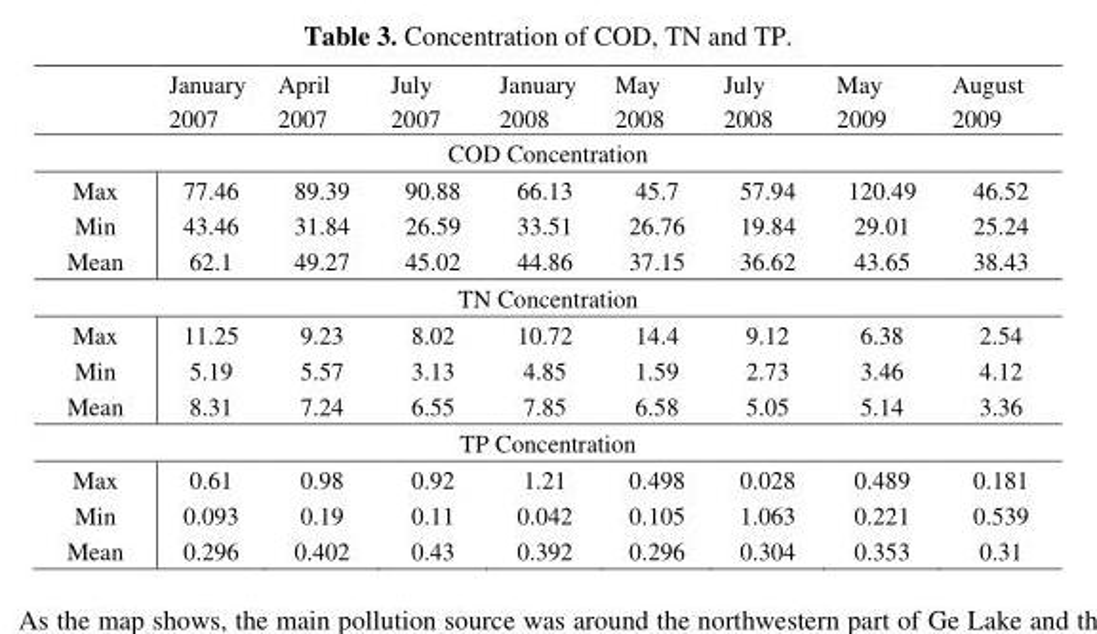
<table><thead><tr><td></td><td>January 2007</td><td>April 2007</td><td>July 2007</td><td>January 2008</td><td>May 2008</td><td>July 2008</td><td>May 2009</td><td>August 2009</td></tr></thead><tbody><tr><td colspan="9">COD Concentration</td></tr><tr><td>Max</td><td>77.46</td><td>89.39</td><td>90.88</td><td>66.13</td><td>45.7</td><td>57.94</td><td>120.49</td><td>46.52</td></tr><tr><td>Min</td><td>43.46</td><td>31.84</td><td>26.59</td><td>33.51</td><td>26.76</td><td>19.84</td><td>29.01</td><td>25.24</td></tr><tr><td>Mean</td><td>62.1</td><td>49.27</td><td>45.02</td><td>44.86</td><td>37.15</td><td>36.62</td><td>43.65</td><td>38.43</td></tr><tr><td colspan="9">TN Concentration</td></tr><tr><td>Max</td><td>11.25</td><td>9.23</td><td>8.02</td><td>10.72</td><td>14.4</td><td>9.12</td><td>6.38</td><td>2.54</td></tr><tr><td>Min</td><td>5.19</td><td>5.57</td><td>3.13</td><td>4.85</td><td>1.59</td><td>2.73</td><td>3.46</td><td>4.12</td></tr><tr><td>Mean</td><td>8.31</td><td>7.24</td><td>6.55</td><td>7.85</td><td>6.58</td><td>5.05</td><td>5.14</td><td>3.36</td></tr><tr><td colspan="9">TP Concentration</td></tr><tr><td>Max</td><td>0.61</td><td>0.98</td><td>0.92</td><td>1.21</td><td>0.498</td><td>0.028</td><td>0.489</td><td>0.181</td></tr><tr><td>Min</td><td>0.093</td><td>0.19</td><td>0.11</td><td>0.042</td><td>0.105</td><td>1.063</td><td>0.221</td><td>0.539</td></tr><tr><td>Mean</td><td>0.296</td><td>0.402</td><td>0.43</td><td>0.392</td><td>0.296</td><td>0.304</td><td>0.353</td><td>0.31</td></tr></tbody></table>